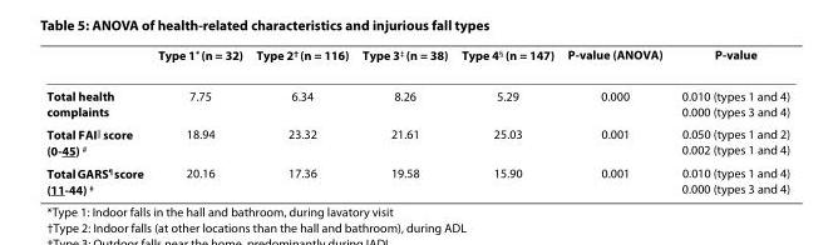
<table><thead><tr><td></td><td>Type 1* (n = 32)</td><td>Type 2<sup>†</sup> (n = 116)</td><td>Type 3<sup>‡</sup> (n = 38)</td><td>Type 4<sup>§</sup> (n = 147)</td><td>P-value (ANOVA)</td><td>P-value</td></tr></thead><tbody><tr><td>Total health complaints</td><td>7.75</td><td>6.34</td><td>8.26</td><td>5.29</td><td>0.000</td><td>0.010 (types 1 and 4) 0.000 (types 3 and 4)</td></tr><tr><td>Total FAI<sup>||</sup> score (0-45) <sup>#</sup></td><td>18.94</td><td>23.32</td><td>21.61</td><td>25.03</td><td>0.001</td><td>0.050 (types 1 and 2) 0.002 (types 1 and 4)</td></tr><tr><td>Total GARS<sup>¶</sup> score (11-44) <sup>#</sup></td><td>20.16</td><td>17.36</td><td>19.58</td><td>15.90</td><td>0.001</td><td>0.010 (types 1 and 4) 0.000 (types 3 and 4)</td></tr></tbody></table>